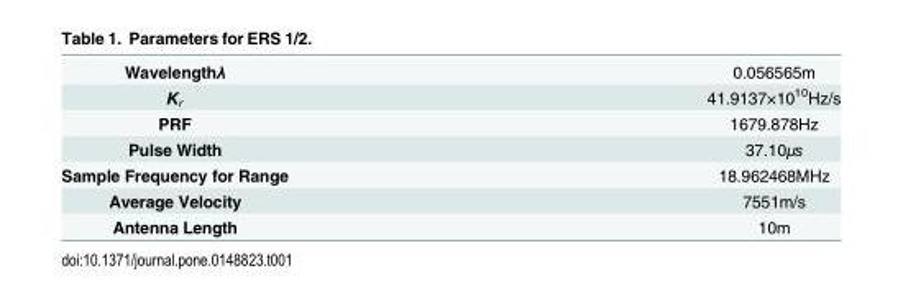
<table><tbody><tr><td>Wavelengthλ</td><td>0.056565m</td></tr><tr><td>K<sub>r</sub></td><td>41.9137×10<sup>10</sup>Hz/s</td></tr><tr><td>PRF</td><td>1679.878Hz</td></tr><tr><td>Pulse Width</td><td>37.10μs</td></tr><tr><td>Sample Frequency for Range</td><td>18.962468MHz</td></tr><tr><td>Average Velocity</td><td>7551m/s</td></tr><tr><td>Antenna Length</td><td>10m</td></tr></tbody></table>